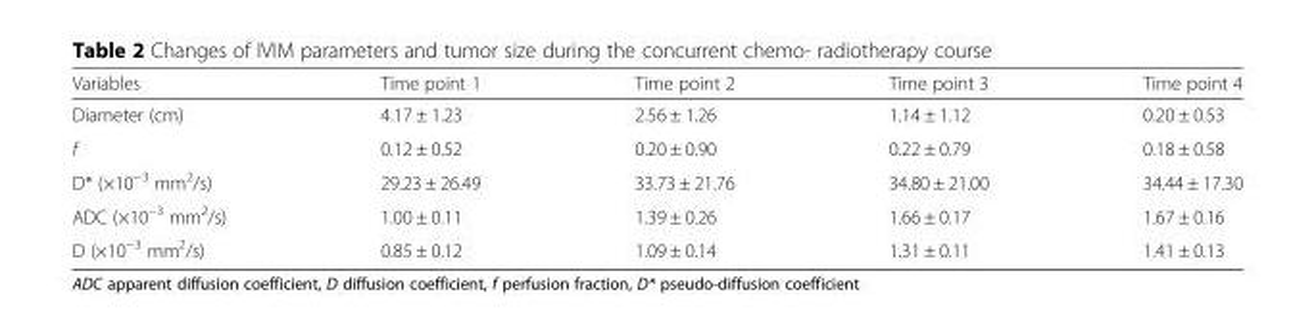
<table><thead><tr><td>Variables</td><td>Time point 1</td><td>Time point 2</td><td>Time point 3</td><td>Time point 4</td></tr></thead><tbody><tr><td>Diameter (cm)</td><td>4.17 ± 1.23</td><td>2.56 ± 1.26</td><td>1.14 ± 1.12</td><td>0.20 ± 0.53</td></tr><tr><td>f</td><td>0.12 ± 0.52</td><td>0.20 ± 0.90</td><td>0.22 ± 0.79</td><td>0.18 ± 0.58</td></tr><tr><td>D* (×10<sup>−3</sup> mm<sup>2</sup>/s)</td><td>29.23 ± 26.49</td><td>33.73 ± 21.76</td><td>34.80 ± 21.00</td><td>34.44 ± 17.30</td></tr><tr><td>ADC (×10<sup>−3</sup> mm<sup>2</sup>/s)</td><td>1.00 ± 0.11</td><td>1.39 ± 0.26</td><td>1.66 ± 0.17</td><td>1.67 ± 0.16</td></tr><tr><td>D (×10<sup>−3</sup> mm<sup>2</sup>/s)</td><td>0.85 ± 0.12</td><td>1.09 ± 0.14</td><td>1.31 ± 0.11</td><td>1.41 ± 0.13</td></tr></tbody></table>